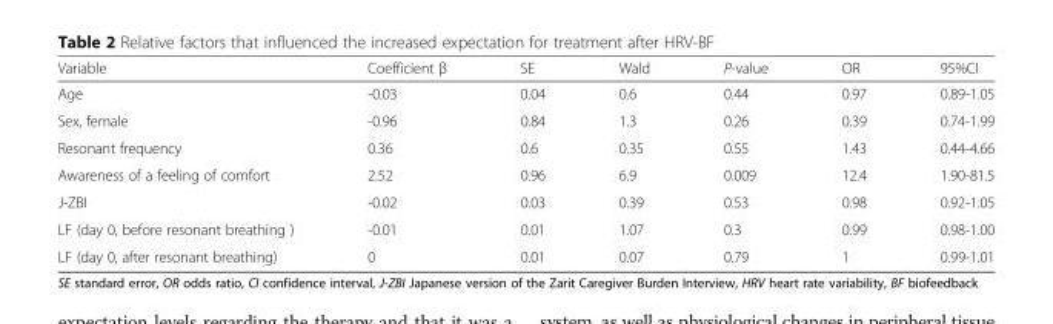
<table><thead><tr><td>Variable</td><td>Coefficient β</td><td>SE</td><td>Wald</td><td>P-value</td><td>OR</td><td>95%CI</td></tr></thead><tbody><tr><td>Age</td><td>-0.03</td><td>0.04</td><td>0.6</td><td>0.44</td><td>0.97</td><td>0.89-1.05</td></tr><tr><td>Sex, female</td><td>-0.96</td><td>0.84</td><td>1.3</td><td>0.26</td><td>0.39</td><td>0.74-1.99</td></tr><tr><td>Resonant frequency</td><td>0.36</td><td>0.6</td><td>0.35</td><td>0.55</td><td>1.43</td><td>0.44-4.66</td></tr><tr><td>Awareness of a feeling of comfort</td><td>2.52</td><td>0.96</td><td>6.9</td><td>0.009</td><td>12.4</td><td>1.90-81.5</td></tr><tr><td>J-ZBI</td><td>-0.02</td><td>0.03</td><td>0.39</td><td>0.53</td><td>0.98</td><td>0.92-1.05</td></tr><tr><td>LF (day 0, before resonant breathing )</td><td>-0.01</td><td>0.01</td><td>1.07</td><td>0.3</td><td>0.99</td><td>0.98-1.00</td></tr><tr><td>LF (day 0, after resonant breathing)</td><td>0</td><td>0.01</td><td>0.07</td><td>0.79</td><td>1</td><td>0.99-1.01</td></tr></tbody></table>